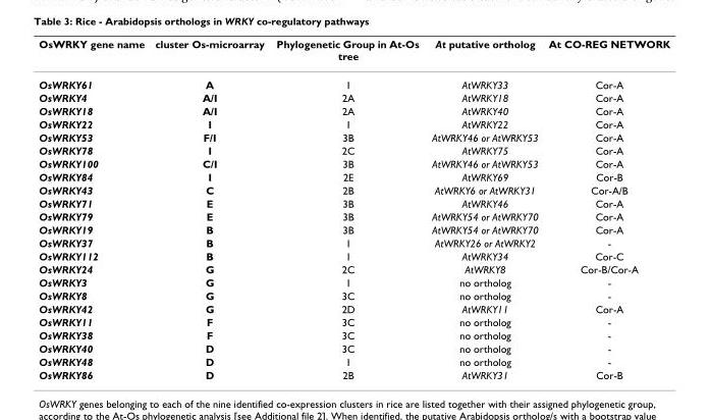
<table><thead><tr><td>OsWRKY gene name</td><td>cluster Os-microarray</td><td>Phylogenetic Group in At-Os tree</td><td>At putative ortholog</td><td>At CO-REG NETWORK</td></tr></thead><tbody><tr><td>OsWRKY61</td><td>A</td><td>1</td><td>AtWRKY33</td><td>Cor-A</td></tr><tr><td>OsWRKY4</td><td>A/I</td><td>2A</td><td>AtWRKY18</td><td>Cor-A</td></tr><tr><td>OsWRKY18</td><td>A/I</td><td>2A</td><td>AtWRKY40</td><td>Cor-A</td></tr><tr><td>OsWRKY22</td><td>I</td><td>1</td><td>AtWRKY22</td><td>Cor-A</td></tr><tr><td>OsWRKY53</td><td>F/I</td><td>3B</td><td>AtWRKY46 or AtWRKY53</td><td>Cor-A</td></tr><tr><td>OsWRKY78</td><td>I</td><td>2C</td><td>AtWRKY75</td><td>Cor-A</td></tr><tr><td>OsWRKY100</td><td>C/I</td><td>3B</td><td>AtWRKY46 or AtWRKY53</td><td>Cor-A</td></tr><tr><td>OsWRKY84</td><td>I</td><td>2E</td><td>AtWRKY69</td><td>Cor-B</td></tr><tr><td>OsWRKY43</td><td>C</td><td>2B</td><td>AtWRKY6 or AtWRKY31</td><td>Cor-A/B</td></tr><tr><td>OsWRKY71</td><td>E</td><td>3B</td><td>AtWRKY46</td><td>Cor-A</td></tr><tr><td>OsWRKY79</td><td>E</td><td>3B</td><td>AtWRKY54 or AtWRKY70</td><td>Cor-A</td></tr><tr><td>OsWRKY19</td><td>B</td><td>3B</td><td>AtWRKY54 or AtWRKY70</td><td>Cor-A</td></tr><tr><td>OsWRKY37</td><td>B</td><td>1</td><td>AtWRKY26 or AtWRKY2</td><td>-</td></tr><tr><td>OsWRKY112</td><td>B</td><td>1</td><td>AtWRKY34</td><td>Cor-C</td></tr><tr><td>OsWRKY24</td><td>G</td><td>2C</td><td>AtWRKY8</td><td>Cor-B/Cor-A</td></tr><tr><td>OsWRKY3</td><td>G</td><td>1</td><td>no ortholog</td><td>-</td></tr><tr><td>OsWRKY8</td><td>G</td><td>3C</td><td>no ortholog</td><td>-</td></tr><tr><td>OsWRKY42</td><td>G</td><td>2D</td><td>AtWRKY11</td><td>Cor-A</td></tr><tr><td>OsWRKY11</td><td>F</td><td>3C</td><td>no ortholog</td><td>-</td></tr><tr><td>OsWRKY38</td><td>F</td><td>3C</td><td>no ortholog</td><td>-</td></tr><tr><td>OsWRKY40</td><td>D</td><td>3C</td><td>no ortholog</td><td>-</td></tr><tr><td>OsWRKY48</td><td>D</td><td>1</td><td>no ortholog</td><td>-</td></tr><tr><td>OsWRKY86</td><td>D</td><td>2B</td><td>AtWRKY31</td><td>Cor-B</td></tr></tbody></table>